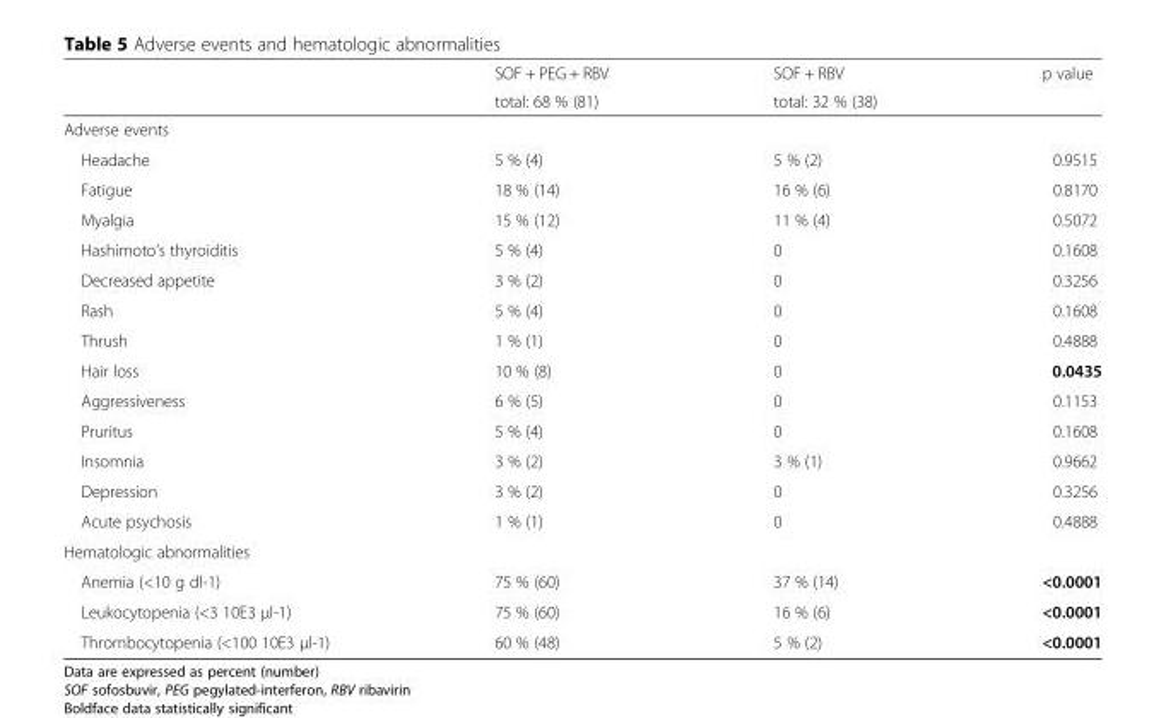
<table><thead><tr><td rowspan="2"></td><td rowspan="2">SOF + PEG + RBV total: 68 % (81)</td><td rowspan="2">SOF + RBV total: 32 % (38)</td><td rowspan="2">p value</td></tr><tr></tr></thead><tbody><tr><td colspan="4">Adverse events</td></tr><tr><td>Headache</td><td>5 % (4)</td><td>5 % (2)</td><td>0.9515</td></tr><tr><td>Fatigue</td><td>18 % (14)</td><td>16 % (6)</td><td>0.8170</td></tr><tr><td>Myalgia</td><td>15 % (12)</td><td>11 % (4)</td><td>0.5072</td></tr><tr><td>Hashimoto’s thyroiditis</td><td>5 % (4)</td><td>0</td><td>0.1608</td></tr><tr><td>Decreased appetite</td><td>3 % (2)</td><td>0</td><td>0.3256</td></tr><tr><td>Rash</td><td>5 % (4)</td><td>0</td><td>0.1608</td></tr><tr><td>Thrush</td><td>1 % (1)</td><td>0</td><td>0.4888</td></tr><tr><td>Hair loss</td><td>10 % (8)</td><td>0</td><td>0.0435</td></tr><tr><td>Aggressiveness</td><td>6 % (5)</td><td>0</td><td>0.1153</td></tr><tr><td>Pruritus</td><td>5 % (4)</td><td>0</td><td>0.1608</td></tr><tr><td>Insomnia</td><td>3 % (2)</td><td>3 % (1)</td><td>0.9662</td></tr><tr><td>Depression</td><td>3 % (2)</td><td>0</td><td>0.3256</td></tr><tr><td>Acute psychosis</td><td>1 % (1)</td><td>0</td><td>0.4888</td></tr><tr><td colspan="4">Hematologic abnormalities</td></tr><tr><td>Anemia (&lt;10 g dl-1)</td><td>75 % (60)</td><td>37 % (14)</td><td>&lt;0.0001</td></tr><tr><td>Leukocytopenia (&lt;3 10E3 μl-1)</td><td>75 % (60)</td><td>16 % (6)</td><td>&lt;0.0001</td></tr><tr><td>Thrombocytopenia (&lt;100 10E3 μl-1)</td><td>60 % (48)</td><td>5 % (2)</td><td>&lt;0.0001</td></tr></tbody></table>